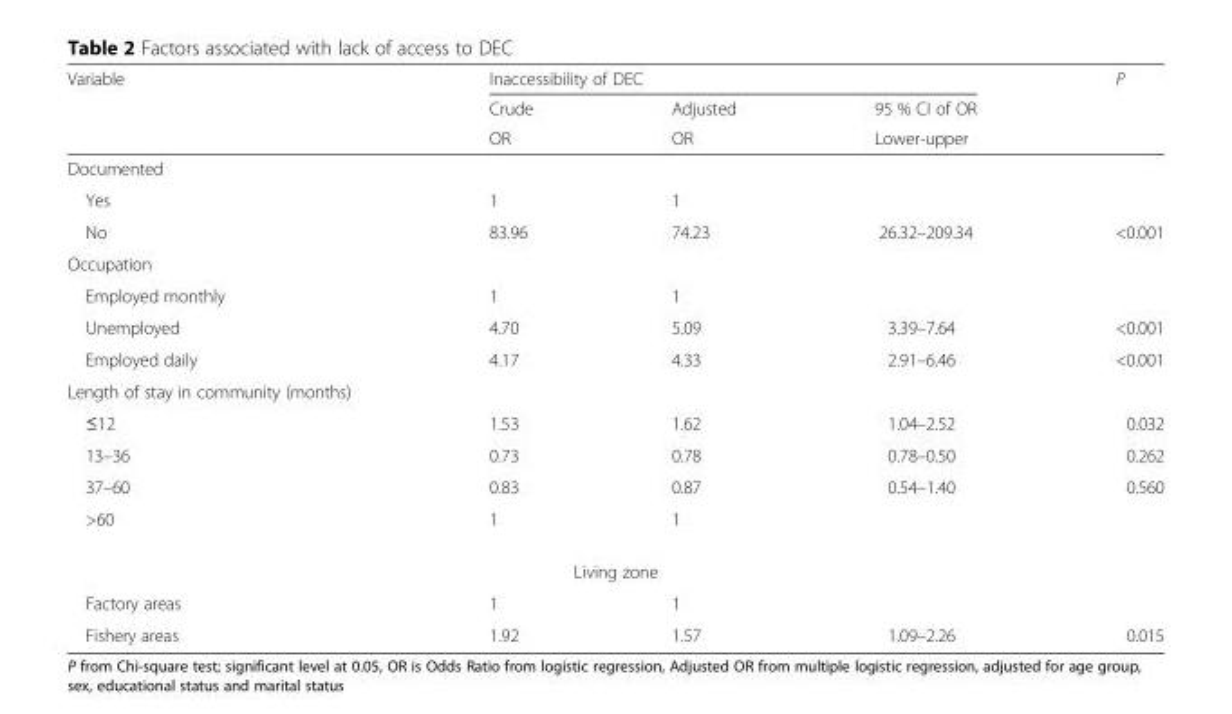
<table><thead><tr><td rowspan="3">Variable</td><td colspan="3">Inaccessibility of DEC</td><td rowspan="3">P</td></tr><tr><td rowspan="2">Crude OR</td><td rowspan="2">Adjusted OR</td><td rowspan="2">95 % CI of OR Lower-upper</td></tr><tr></tr></thead><tbody><tr><td colspan="5">Documented</td></tr><tr><td>Yes</td><td>1</td><td>1</td><td></td><td></td></tr><tr><td>No</td><td>83.96</td><td>74.23</td><td>26.32–209.34</td><td>&lt;0.001</td></tr><tr><td colspan="5">Occupation</td></tr><tr><td>Employed monthly</td><td>1</td><td>1</td><td></td><td></td></tr><tr><td>Unemployed</td><td>4.70</td><td>5.09</td><td>3.39–7.64</td><td>&lt;0.001</td></tr><tr><td>Employed daily</td><td>4.17</td><td>4.33</td><td>2.91–6.46</td><td>&lt;0.001</td></tr><tr><td colspan="5">Length of stay in community (months)</td></tr><tr><td>≤12</td><td>1.53</td><td>1.62</td><td>1.04–2.52</td><td>0.032</td></tr><tr><td>13–36</td><td>0.73</td><td>0.78</td><td>0.78–0.50</td><td>0.262</td></tr><tr><td>37–60</td><td>0.83</td><td>0.87</td><td>0.54–1.40</td><td>0.560</td></tr><tr><td>&gt;60</td><td>1</td><td>1</td><td></td><td></td></tr><tr><td colspan="5">Living zone</td></tr><tr><td>Factory areas</td><td>1</td><td>1</td><td></td><td></td></tr><tr><td>Fishery areas</td><td>1.92</td><td>1.57</td><td>1.09–2.26</td><td>0.015</td></tr></tbody></table>